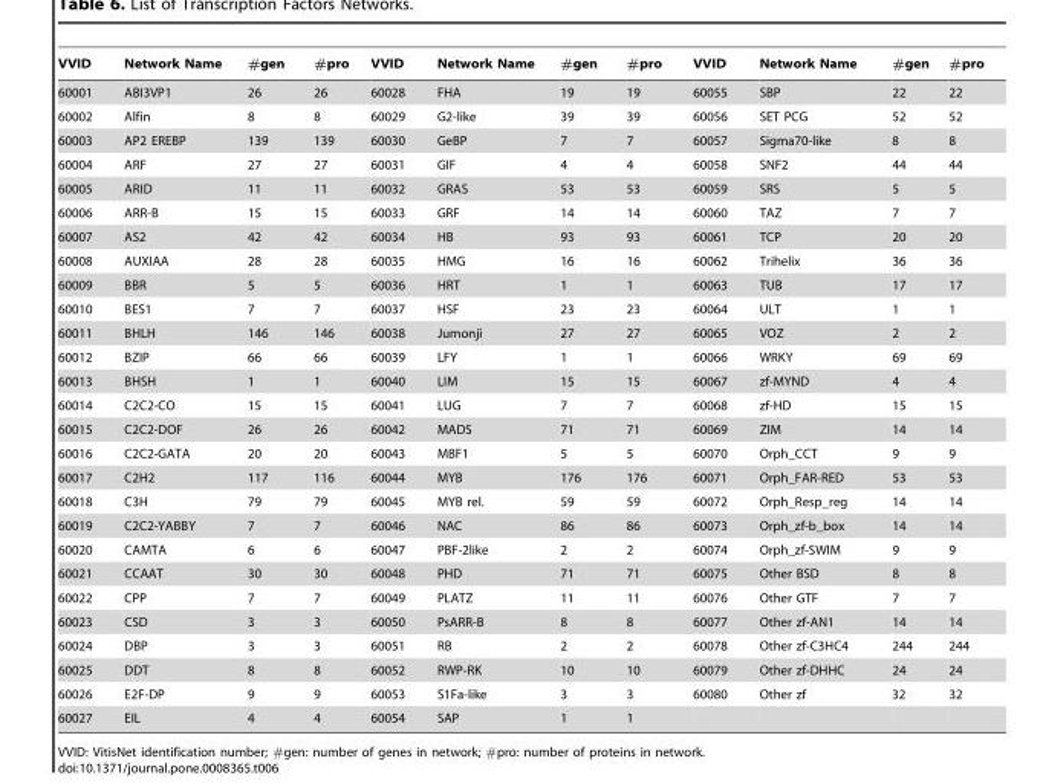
<table><thead><tr><td>VVID</td><td>Network Name</td><td>#gen</td><td>#pro</td><td>VVID</td><td>Network Name</td><td>#gen</td><td>#pro</td><td>VVID</td><td>Network Name</td><td>#gen</td><td>#pro</td></tr></thead><tbody><tr><td>60001</td><td>ABI3VP1</td><td>26</td><td>26</td><td>60028</td><td>FHA</td><td>19</td><td>19</td><td>60055</td><td>SBP</td><td>22</td><td>22</td></tr><tr><td>60002</td><td>Alfin</td><td>8</td><td>8</td><td>60029</td><td>G2-like</td><td>39</td><td>39</td><td>60056</td><td>SET PCG</td><td>52</td><td>52</td></tr><tr><td>60003</td><td>AP2 EREBP</td><td>139</td><td>139</td><td>60030</td><td>GeBP</td><td>7</td><td>7</td><td>60057</td><td>Sigma70-like</td><td>8</td><td>8</td></tr><tr><td>60004</td><td>ARF</td><td>27</td><td>27</td><td>60031</td><td>GIF</td><td>4</td><td>4</td><td>60058</td><td>SNF2</td><td>44</td><td>44</td></tr><tr><td>60005</td><td>ARID</td><td>11</td><td>11</td><td>60032</td><td>GRAS</td><td>53</td><td>53</td><td>60059</td><td>SRS</td><td>5</td><td>5</td></tr><tr><td>60006</td><td>ARR-B</td><td>15</td><td>15</td><td>60033</td><td>GRF</td><td>14</td><td>14</td><td>60060</td><td>TAZ</td><td>7</td><td>7</td></tr><tr><td>60007</td><td>AS2</td><td>42</td><td>42</td><td>60034</td><td>HB</td><td>93</td><td>93</td><td>60061</td><td>TCP</td><td>20</td><td>20</td></tr><tr><td>60008</td><td>AUXIAA</td><td>28</td><td>28</td><td>60035</td><td>HMG</td><td>16</td><td>16</td><td>60062</td><td>Trihelix</td><td>36</td><td>36</td></tr><tr><td>60009</td><td>BBR</td><td>5</td><td>5</td><td>60036</td><td>HRT</td><td>1</td><td>1</td><td>60063</td><td>TUB</td><td>17</td><td>17</td></tr><tr><td>60010</td><td>BES1</td><td>7</td><td>7</td><td>60037</td><td>HSF</td><td>23</td><td>23</td><td>60064</td><td>ULT</td><td>1</td><td>1</td></tr><tr><td>60011</td><td>BHLH</td><td>146</td><td>146</td><td>60038</td><td>Jumonji</td><td>27</td><td>27</td><td>60065</td><td>VOZ</td><td>2</td><td>2</td></tr><tr><td>60012</td><td>BZIP</td><td>66</td><td>66</td><td>60039</td><td>LFY</td><td>1</td><td>1</td><td>60066</td><td>WRKY</td><td>69</td><td>69</td></tr><tr><td>60013</td><td>BHSH</td><td>1</td><td>1</td><td>60040</td><td>LIM</td><td>15</td><td>15</td><td>60067</td><td>zf-MYND</td><td>4</td><td>4</td></tr><tr><td>60014</td><td>C2C2-CO</td><td>15</td><td>15</td><td>60041</td><td>LUG</td><td>7</td><td>7</td><td>60068</td><td>zf-HD</td><td>15</td><td>15</td></tr><tr><td>60015</td><td>C2C2-DOF</td><td>26</td><td>26</td><td>60042</td><td>MADS</td><td>71</td><td>71</td><td>60069</td><td>ZIM</td><td>14</td><td>14</td></tr><tr><td>60016</td><td>C2C2-GATA</td><td>20</td><td>20</td><td>60043</td><td>MBF1</td><td>5</td><td>5</td><td>60070</td><td>Orph_CCT</td><td>9</td><td>9</td></tr><tr><td>60017</td><td>C2H2</td><td>117</td><td>116</td><td>60044</td><td>MYB</td><td>176</td><td>176</td><td>60071</td><td>Orph_FAR-RED</td><td>53</td><td>53</td></tr><tr><td>60018</td><td>C3H</td><td>79</td><td>79</td><td>60045</td><td>MYB rel.</td><td>59</td><td>59</td><td>60072</td><td>Orph_Resp_reg</td><td>14</td><td>14</td></tr><tr><td>60019</td><td>C2C2-YABBY</td><td>7</td><td>7</td><td>60046</td><td>NAC</td><td>86</td><td>86</td><td>60073</td><td>Orph_zf-b_box</td><td>14</td><td>14</td></tr><tr><td>60020</td><td>CAMTA</td><td>6</td><td>6</td><td>60047</td><td>PBF-2like</td><td>2</td><td>2</td><td>60074</td><td>Orph_zf-SWIM</td><td>9</td><td>9</td></tr><tr><td>60021</td><td>CCAAT</td><td>30</td><td>30</td><td>60048</td><td>PHD</td><td>71</td><td>71</td><td>60075</td><td>Other BSD</td><td>8</td><td>8</td></tr><tr><td>60022</td><td>CPP</td><td>7</td><td>7</td><td>60049</td><td>PLATZ</td><td>11</td><td>11</td><td>60076</td><td>Other GTF</td><td>7</td><td>7</td></tr><tr><td>60023</td><td>CSD</td><td>3</td><td>3</td><td>60050</td><td>PsARR-B</td><td>8</td><td>8</td><td>60077</td><td>Other zf-AN1</td><td>14</td><td>14</td></tr><tr><td>60024</td><td>DBP</td><td>3</td><td>3</td><td>60051</td><td>RB</td><td>2</td><td>2</td><td>60078</td><td>Other zf-C3HC4</td><td>244</td><td>244</td></tr><tr><td>60025</td><td>DDT</td><td>8</td><td>8</td><td>60052</td><td>RWP-RK</td><td>10</td><td>10</td><td>60079</td><td>Other zf-DHHC</td><td>24</td><td>24</td></tr><tr><td>60026</td><td>E2F-DP</td><td>9</td><td>9</td><td>60053</td><td>S1Fa-like</td><td>3</td><td>3</td><td>60080</td><td>Other zf</td><td>32</td><td>32</td></tr><tr><td>60027</td><td>EIL</td><td>4</td><td>4</td><td>60054</td><td>SAP</td><td>1</td><td>1</td><td></td><td></td><td></td><td></td></tr></tbody></table>